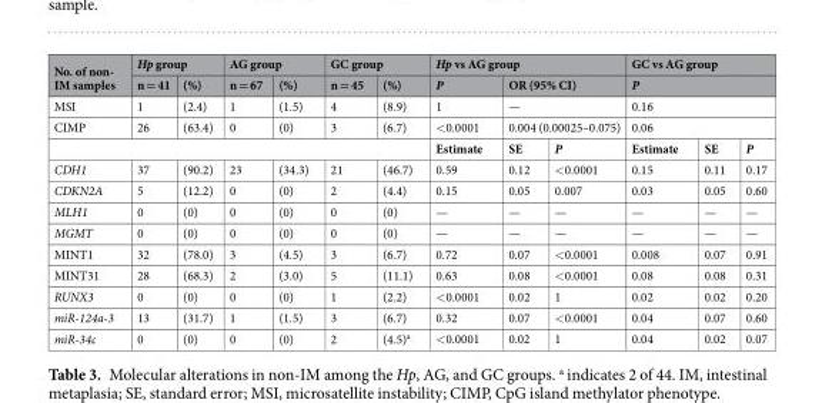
<table><thead><tr><td rowspan="4">No. of non- IM samples MSI CIMP</td><td colspan="2">Hp group</td><td colspan="2">AG group</td><td colspan="2">GC group</td><td colspan="3">Hp vs AG group</td><td rowspan="4" colspan="3">GC vs AG group P 0.16 0.06</td></tr><tr><td rowspan="3">n = 41 1 26</td><td rowspan="3">(%) (2.4) (63.4)</td><td rowspan="3">n = 67 1 0</td><td rowspan="3">(%) (1.5) (0)</td><td rowspan="3">n = 45 4 3</td><td rowspan="3">(%) (8.9) (6.7)</td><td rowspan="4">P 1 &lt;0.0001 Estimate</td><td rowspan="3" colspan="2">OR (95% CI) — 0.004 (0.00025–0.075)</td></tr><tr></tr><tr></tr><tr><td colspan="7"></td><td>SE</td><td>P</td><td>Estimate</td><td>SE</td><td>P</td></tr></thead><tbody><tr><td>CDH1</td><td>37</td><td>(90.2)</td><td>23</td><td>(34.3)</td><td>21</td><td>(46.7)</td><td>0.59</td><td>0.12</td><td>&lt;0.0001</td><td>0.15</td><td>0.11</td><td>0.17</td></tr><tr><td>CDKN2A</td><td>5</td><td>(12.2)</td><td>0</td><td>(0)</td><td>2</td><td>(4.4)</td><td>0.15</td><td>0.05</td><td>0.007</td><td>0.03</td><td>0.05</td><td>0.60</td></tr><tr><td>MLH1</td><td>0</td><td>(0)</td><td>0</td><td>(0)</td><td>0</td><td>(0)</td><td>—</td><td>—</td><td>—</td><td>—</td><td>—</td><td>—</td></tr><tr><td>MGMT</td><td>0</td><td>(0)</td><td>0</td><td>(0)</td><td>0</td><td>(0)</td><td>—</td><td>—</td><td>—</td><td>—</td><td>—</td><td>—</td></tr><tr><td>MINT1</td><td>32</td><td>(78.0)</td><td>3</td><td>(4.5)</td><td>3</td><td>(6.7)</td><td>0.72</td><td>0.07</td><td>&lt;0.0001</td><td>0.008</td><td>0.07</td><td>0.91</td></tr><tr><td>MINT31</td><td>28</td><td>(68.3)</td><td>2</td><td>(3.0)</td><td>5</td><td>(11.1)</td><td>0.63</td><td>0.08</td><td>&lt;0.0001</td><td>0.08</td><td>0.08</td><td>0.31</td></tr><tr><td>RUNX3</td><td>0</td><td>(0)</td><td>0</td><td>(0)</td><td>1</td><td>(2.2)</td><td>&lt;0.0001</td><td>0.02</td><td>1</td><td>0.02</td><td>0.02</td><td>0.20</td></tr><tr><td>miR-124a-3</td><td>13</td><td>(31.7)</td><td>1</td><td>(1.5)</td><td>3</td><td>(6.7)</td><td>0.32</td><td>0.07</td><td>&lt;0.0001</td><td>0.04</td><td>0.07</td><td>0.60</td></tr><tr><td>miR-34c</td><td>0</td><td>(0)</td><td>0</td><td>(0)</td><td>2</td><td>(4.5)<sup>a</sup></td><td>&lt;0.0001</td><td>0.02</td><td>1</td><td>0.04</td><td>0.02</td><td>0.07</td></tr></tbody></table>